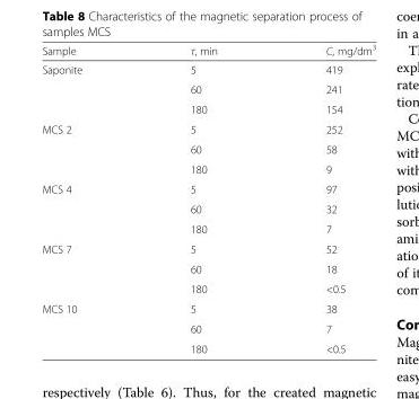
<table><thead><tr><td>Sample</td><td>τ, min</td><td>C, mg/dm<sup>3</sup></td></tr></thead><tbody><tr><td rowspan="3">Saponite</td><td>5</td><td>419</td></tr><tr><td>60</td><td>241</td></tr><tr><td>180</td><td>154</td></tr><tr><td rowspan="3">MCS 2</td><td>5</td><td>252</td></tr><tr><td>60</td><td>58</td></tr><tr><td>180</td><td>9</td></tr><tr><td rowspan="3">MCS 4</td><td>5</td><td>97</td></tr><tr><td>60</td><td>32</td></tr><tr><td>180</td><td>7</td></tr><tr><td rowspan="3">MCS 7</td><td>5</td><td>52</td></tr><tr><td>60</td><td>18</td></tr><tr><td>180</td><td>&lt;0.5</td></tr><tr><td rowspan="3">MCS 10</td><td>5</td><td>38</td></tr><tr><td>60</td><td>7</td></tr><tr><td>180</td><td>&lt;0.5</td></tr></tbody></table>